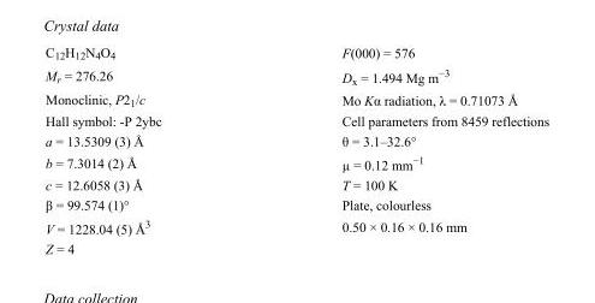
<table><tbody><tr><td>C<sub>12</sub>H<sub>12</sub>N<sub>4</sub>O<sub>4</sub></td><td>F(000) = 576</td></tr><tr><td>M<sub>r</sub> = 276.26</td><td>D<sub>x</sub> = 1.494 Mg m<sup>−3</sup></td></tr><tr><td>Monoclinic, P2<sub>1</sub>/c</td><td>Mo Kα radiation, λ = 0.71073 Å</td></tr><tr><td>Hall symbol: -P 2ybc</td><td>Cell parameters from 8459 reflections</td></tr><tr><td>a = 13.5309 (3) Å</td><td>θ = 3.1–32.6°</td></tr><tr><td>b = 7.3014 (2) Å</td><td>µ = 0.12 mm<sup>−1</sup></td></tr><tr><td>c = 12.6058 (3) Å</td><td>T = 100 K</td></tr><tr><td>β = 99.574 (1)°</td><td>Plate, colourless</td></tr><tr><td>V = 1228.04 (5) Å<sup>3</sup></td><td>0.50 × 0.16 × 0.16 mm</td></tr><tr><td>Z = 4</td><td></td></tr></tbody></table>